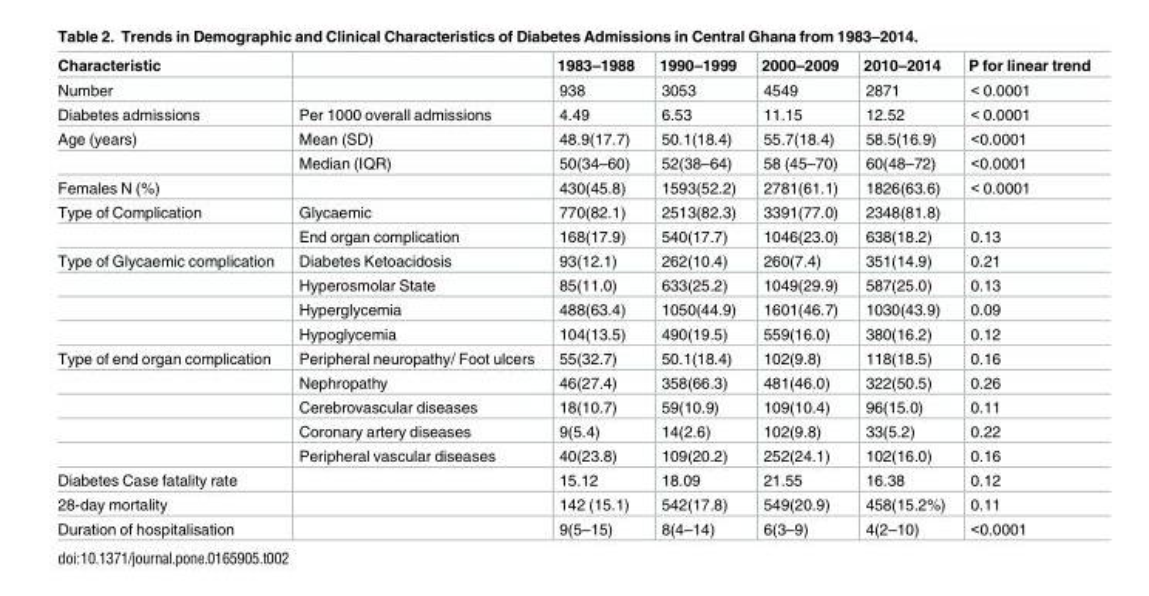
<table><thead><tr><td>Characteristic</td><td></td><td>1983–1988</td><td>1990–1999</td><td>2000–2009</td><td>2010–2014</td><td>P for linear trend</td></tr></thead><tbody><tr><td>Number</td><td></td><td>938</td><td>3053</td><td>4549</td><td>2871</td><td>&lt; 0.0001</td></tr><tr><td>Diabetes admissions</td><td>Per 1000 overall admissions</td><td>4.49</td><td>6.53</td><td>11.15</td><td>12.52</td><td>&lt; 0.0001</td></tr><tr><td rowspan="2">Age (years)</td><td>Mean (SD)</td><td>48.9(17.7)</td><td>50.1(18.4)</td><td>55.7(18.4)</td><td>58.5(16.9)</td><td>&lt;0.0001</td></tr><tr><td>Median (IQR)</td><td>50(34–60)</td><td>52(38–64)</td><td>58 (45–70)</td><td>60(48–72)</td><td>&lt;0.0001</td></tr><tr><td>Females N (%)</td><td></td><td>430(45.8)</td><td>1593(52.2)</td><td>2781(61.1)</td><td>1826(63.6)</td><td>&lt; 0.0001</td></tr><tr><td rowspan="2">Type of Complication</td><td>Glycaemic</td><td>770(82.1)</td><td>2513(82.3)</td><td>3391(77.0)</td><td>2348(81.8)</td><td></td></tr><tr><td>End organ complication</td><td>168(17.9)</td><td>540(17.7)</td><td>1046(23.0)</td><td>638(18.2)</td><td>0.13</td></tr><tr><td rowspan="4">Type of Glycaemic complication</td><td>Diabetes Ketoacidosis</td><td>93(12.1)</td><td>262(10.4)</td><td>260(7.4)</td><td>351(14.9)</td><td>0.21</td></tr><tr><td>Hyperosmolar State</td><td>85(11.0)</td><td>633(25.2)</td><td>1049(29.9)</td><td>587(25.0)</td><td>0.13</td></tr><tr><td>Hyperglycemia</td><td>488(63.4)</td><td>1050(44.9)</td><td>1601(46.7)</td><td>1030(43.9)</td><td>0.09</td></tr><tr><td>Hypoglycemia</td><td>104(13.5)</td><td>490(19.5)</td><td>559(16.0)</td><td>380(16.2)</td><td>0.12</td></tr><tr><td rowspan="5">Type of end organ complication</td><td>Peripheral neuropathy/ Foot ulcers</td><td>55(32.7)</td><td>50.1(18.4)</td><td>102(9.8)</td><td>118(18.5)</td><td>0.16</td></tr><tr><td>Nephropathy</td><td>46(27.4)</td><td>358(66.3)</td><td>481(46.0)</td><td>322(50.5)</td><td>0.26</td></tr><tr><td>Cerebrovascular diseases</td><td>18(10.7)</td><td>59(10.9)</td><td>109(10.4)</td><td>96(15.0)</td><td>0.11</td></tr><tr><td>Coronary artery diseases</td><td>9(5.4)</td><td>14(2.6)</td><td>102(9.8)</td><td>33(5.2)</td><td>0.22</td></tr><tr><td>Peripheral vascular diseases</td><td>40(23.8)</td><td>109(20.2)</td><td>252(24.1)</td><td>102(16.0)</td><td>0.16</td></tr><tr><td>Diabetes Case fatality rate</td><td></td><td>15.12</td><td>18.09</td><td>21.55</td><td>16.38</td><td>0.12</td></tr><tr><td>28-day mortality</td><td></td><td>142 (15.1)</td><td>542(17.8)</td><td>549(20.9)</td><td>458(15.2%)</td><td>0.11</td></tr><tr><td>Duration of hospitalisation</td><td></td><td>9(5–15)</td><td>8(4–14)</td><td>6(3–9)</td><td>4(2–10)</td><td>&lt;0.0001</td></tr></tbody></table>